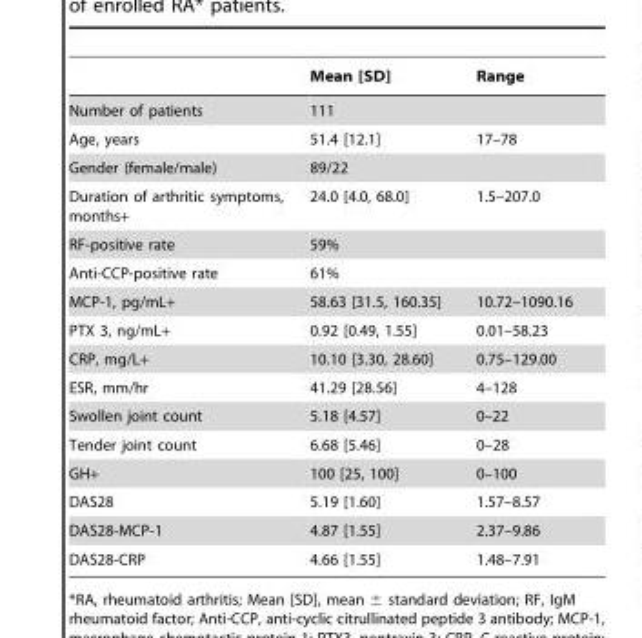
<table><thead><tr><td></td><td>Mean [SD]</td><td>Range</td></tr></thead><tbody><tr><td>Number of patients</td><td>111</td><td></td></tr><tr><td>Age, years</td><td>51.4 [12.1]</td><td>17–78</td></tr><tr><td>Gender (female/male)</td><td>89/22</td><td></td></tr><tr><td>Duration of arthritic symptoms, months+</td><td>24.0 [4.0, 68.0]</td><td>1.5–207.0</td></tr><tr><td>RF-positive rate</td><td>59%</td><td></td></tr><tr><td>Anti-CCP-positive rate</td><td>61%</td><td></td></tr><tr><td>MCP-1, pg/mL+</td><td>58.63 [31.5, 160.35]</td><td>10.72–1090.16</td></tr><tr><td>PTX 3, ng/mL+</td><td>0.92 [0.49, 1.55]</td><td>0.01–58.23</td></tr><tr><td>CRP, mg/L+</td><td>10.10 [3.30, 28.60]</td><td>0.75–129.00</td></tr><tr><td>ESR, mm/hr</td><td>41.29 [28.56]</td><td>4–128</td></tr><tr><td>Swollen joint count</td><td>5.18 [4.57]</td><td>0–22</td></tr><tr><td>Tender joint count</td><td>6.68 [5.46]</td><td>0–28</td></tr><tr><td>GH+</td><td>100 [25, 100]</td><td>0–100</td></tr><tr><td>DAS28</td><td>5.19 [1.60]</td><td>1.57–8.57</td></tr><tr><td>DAS28-MCP-1</td><td>4.87 [1.55]</td><td>2.37–9.86</td></tr><tr><td>DAS28-CRP</td><td>4.66 [1.55]</td><td>1.48–7.91</td></tr></tbody></table>